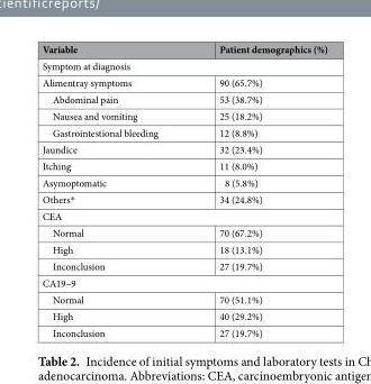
<table><thead><tr><td>Variable</td><td>Patient demographics (%)</td></tr></thead><tbody><tr><td colspan="2">Symptom at diagnosis</td></tr><tr><td>Alimentray symptoms</td><td>90 (65.7%)</td></tr><tr><td>Abdominal pain</td><td>53 (38.7%)</td></tr><tr><td>Nausea and vomiting</td><td>25 (18.2%)</td></tr><tr><td>Gastrointestional bleeding</td><td>12 (8.8%)</td></tr><tr><td>Jaundice</td><td>32 (23.4%)</td></tr><tr><td>Itching</td><td>11 (8.0%)</td></tr><tr><td>Asymoptomatic</td><td>8 (5.8%)</td></tr><tr><td>Others*</td><td>34 (24.8%)</td></tr><tr><td colspan="2">CEA</td></tr><tr><td>Normal</td><td>70 (67.2%)</td></tr><tr><td>High</td><td>18 (13.1%)</td></tr><tr><td>Inconclusion</td><td>27 (19.7%)</td></tr><tr><td colspan="2">CA19–9</td></tr><tr><td>Normal</td><td>70 (51.1%)</td></tr><tr><td>High</td><td>40 (29.2%)</td></tr><tr><td>Inconclusion</td><td>27 (19.7%)</td></tr></tbody></table>